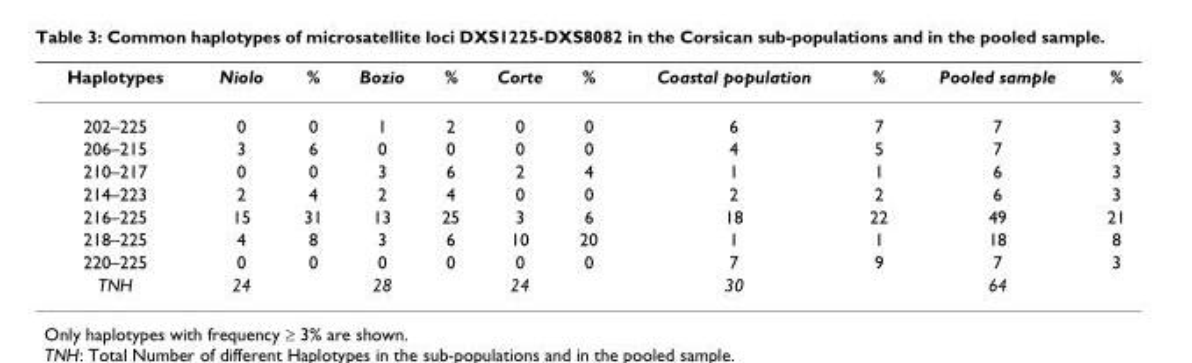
<table><thead><tr><td>Haplotypes</td><td>Niolo</td><td>%</td><td>Bozio</td><td>%</td><td>Corte</td><td>%</td><td>Coastal population</td><td>%</td><td>Pooled sample</td><td>%</td></tr></thead><tbody><tr><td>202–225</td><td>0</td><td>0</td><td>1</td><td>2</td><td>0</td><td>0</td><td>6</td><td>7</td><td>7</td><td>3</td></tr><tr><td>206–215</td><td>3</td><td>6</td><td>0</td><td>0</td><td>0</td><td>0</td><td>4</td><td>5</td><td>7</td><td>3</td></tr><tr><td>210–217</td><td>0</td><td>0</td><td>3</td><td>6</td><td>2</td><td>4</td><td>1</td><td>1</td><td>6</td><td>3</td></tr><tr><td>214–223</td><td>2</td><td>4</td><td>2</td><td>4</td><td>0</td><td>0</td><td>2</td><td>2</td><td>6</td><td>3</td></tr><tr><td>216–225</td><td>15</td><td>31</td><td>13</td><td>25</td><td>3</td><td>6</td><td>18</td><td>22</td><td>49</td><td>21</td></tr><tr><td>218–225</td><td>4</td><td>8</td><td>3</td><td>6</td><td>10</td><td>20</td><td>1</td><td>1</td><td>18</td><td>8</td></tr><tr><td>220–225</td><td>0</td><td>0</td><td>0</td><td>0</td><td>0</td><td>0</td><td>7</td><td>9</td><td>7</td><td>3</td></tr><tr><td>TNH</td><td>24</td><td></td><td>28</td><td></td><td>24</td><td></td><td>30</td><td></td><td>64</td><td></td></tr></tbody></table>